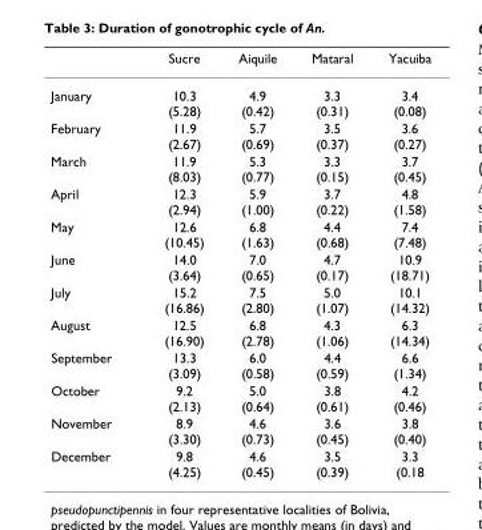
<table><thead><tr><td></td><td>Sucre</td><td>Aiquile</td><td>Mataral</td><td>Yacuiba</td></tr></thead><tbody><tr><td>January</td><td>10.3 (5.28)</td><td>4.9 (0.42)</td><td>3.3 (0.31)</td><td>3.4 (0.08)</td></tr><tr><td>February</td><td>11.9 (2.67)</td><td>5.7 (0.69)</td><td>3.5 (0.37)</td><td>3.6 (0.27)</td></tr><tr><td>March</td><td>11.9 (8.03)</td><td>5.3 (0.77)</td><td>3.3 (0.15)</td><td>3.7 (0.45)</td></tr><tr><td>April</td><td>12.3 (2.94)</td><td>5.9 (1.00)</td><td>3.7 (0.22)</td><td>4.8 (1.58)</td></tr><tr><td>May</td><td>12.6 (10.45)</td><td>6.8 (1.63)</td><td>4.4 (0.68)</td><td>7.4 (7.48)</td></tr><tr><td>June</td><td>14.0 (3.64)</td><td>7.0 (0.65)</td><td>4.7 (0.17)</td><td>10.9 (18.71)</td></tr><tr><td>July</td><td>15.2 (16.86)</td><td>7.5 (2.80)</td><td>5.0 (1.07)</td><td>10.1 (14.32)</td></tr><tr><td>August</td><td>12.5 (16.90)</td><td>6.8 (2.78)</td><td>4.3 (1.06)</td><td>6.3 (14.34)</td></tr><tr><td>September</td><td>13.3 (3.09)</td><td>6.0 (0.58)</td><td>4.4 (0.59)</td><td>6.6 (1.34)</td></tr><tr><td>October</td><td>9.2 (2.13)</td><td>5.0 (0.64)</td><td>3.8 (0.61)</td><td>4.2 (0.46)</td></tr><tr><td>November</td><td>8.9 (3.30)</td><td>4.6 (0.73)</td><td>3.6 (0.45)</td><td>3.8 (0.40)</td></tr><tr><td>December</td><td>9.8 (4.25)</td><td>4.6 (0.45)</td><td>3.5 (0.39)</td><td>3.3 (0.18</td></tr></tbody></table>